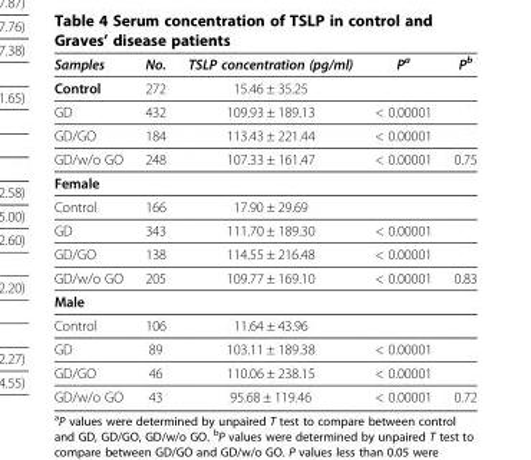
<table><thead><tr><td>Samples</td><td>No.</td><td>TSLP concentration (pg/ml)</td><td>P<sup>a</sup></td><td>P<sup>b</sup></td></tr></thead><tbody><tr><td>Control</td><td>272</td><td>15.46 ± 35.25</td><td></td><td></td></tr><tr><td>GD</td><td>432</td><td>109.93 ± 189.13</td><td>&lt; 0.00001</td><td></td></tr><tr><td>GD/GO</td><td>184</td><td>113.43 ± 221.44</td><td>&lt; 0.00001</td><td></td></tr><tr><td>GD/w/o GO</td><td>248</td><td>107.33 ± 161.47</td><td>&lt; 0.00001</td><td>0.75</td></tr><tr><td colspan="5">Female</td></tr><tr><td>Control</td><td>166</td><td>17.90 ± 29.69</td><td></td><td></td></tr><tr><td>GD</td><td>343</td><td>111.70 ± 189.30</td><td>&lt; 0.00001</td><td></td></tr><tr><td>GD/GO</td><td>138</td><td>114.55 ± 216.48</td><td>&lt; 0.00001</td><td></td></tr><tr><td>GD/w/o GO</td><td>205</td><td>109.77 ± 169.10</td><td>&lt; 0.00001</td><td>0.83</td></tr><tr><td colspan="5">Male</td></tr><tr><td>Control</td><td>106</td><td>11.64 ± 43.96</td><td></td><td></td></tr><tr><td>GD</td><td>89</td><td>103.11 ± 189.38</td><td>&lt; 0.00001</td><td></td></tr><tr><td>GD/GO</td><td>46</td><td>110.06 ± 238.15</td><td>&lt; 0.00001</td><td></td></tr><tr><td>GD/w/o GO</td><td>43</td><td>95.68 ± 119.46</td><td>&lt; 0.00001</td><td>0.72</td></tr></tbody></table>